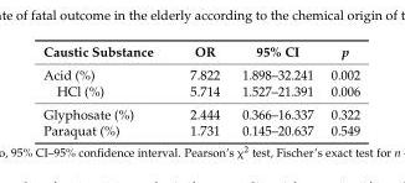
<table><thead><tr><td>Caustic Substance</td><td>OR</td><td>95% CI</td><td>p</td></tr></thead><tbody><tr><td>Acid (%)</td><td>7.822</td><td>1.898–32.241</td><td>0.002</td></tr><tr><td>HCl (%)</td><td>5.714</td><td>1.527–21.391</td><td>0.006</td></tr><tr><td>Glyphosate (%)</td><td>2.444</td><td>0.366–16.337</td><td>0.322</td></tr><tr><td>Paraquat (%)</td><td>1.731</td><td>0.145–20.637</td><td>0.549</td></tr></tbody></table>